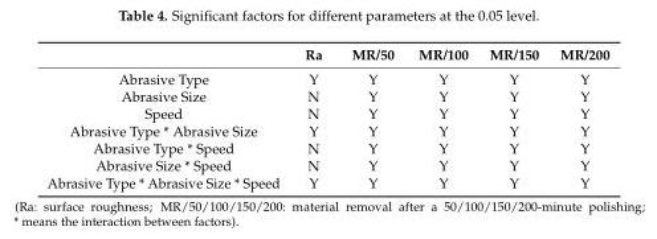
<table><thead><tr><td></td><td>Ra</td><td>MR/50</td><td>MR/100</td><td>MR/150</td><td>MR/200</td></tr></thead><tbody><tr><td>Abrasive Type</td><td>Y</td><td>Y</td><td>Y</td><td>Y</td><td>Y</td></tr><tr><td>Abrasive Size</td><td>N</td><td>Y</td><td>Y</td><td>Y</td><td>Y</td></tr><tr><td>Speed</td><td>N</td><td>Y</td><td>Y</td><td>Y</td><td>Y</td></tr><tr><td>Abrasive Type * Abrasive Size</td><td>Y</td><td>Y</td><td>Y</td><td>Y</td><td>Y</td></tr><tr><td>Abrasive Type * Speed</td><td>N</td><td>Y</td><td>Y</td><td>Y</td><td>Y</td></tr><tr><td>Abrasive Size * Speed</td><td>N</td><td>Y</td><td>Y</td><td>Y</td><td>Y</td></tr><tr><td>Abrasive Type * Abrasive Size * Speed</td><td>Y</td><td>Y</td><td>Y</td><td>Y</td><td>Y</td></tr></tbody></table>